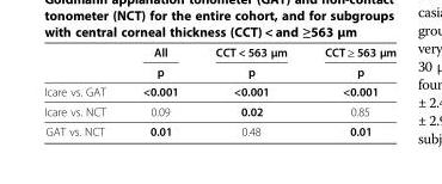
<table><thead><tr><td rowspan="2"></td><td rowspan="2">All p</td><td rowspan="2">CCT &lt; 563 μm p</td><td rowspan="2">CCT ≥ 563 μm p</td></tr><tr></tr></thead><tbody><tr><td>Icare vs. GAT</td><td>&lt;0.001</td><td>&lt;0.001</td><td>&lt;0.001</td></tr><tr><td>Icare vs. NCT</td><td>0.09</td><td>0.02</td><td>0.85</td></tr><tr><td>GAT vs. NCT</td><td>0.01</td><td>0.48</td><td>0.01</td></tr></tbody></table>